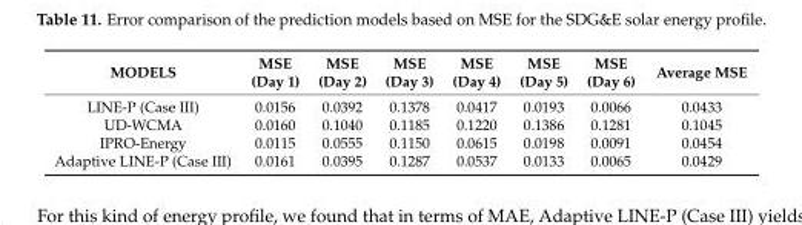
<table><thead><tr><td>MODELS</td><td>MSE (Day 1)</td><td>MSE (Day 2)</td><td>MSE (Day 3)</td><td>MSE (Day 4)</td><td>MSE (Day 5)</td><td>MSE (Day 6)</td><td>Average MSE</td></tr></thead><tbody><tr><td>LINE-P (Case III)</td><td>0.0156</td><td>0.0392</td><td>0.1378</td><td>0.0417</td><td>0.0193</td><td>0.0066</td><td>0.0433</td></tr><tr><td>UD-WCMA</td><td>0.0160</td><td>0.1040</td><td>0.1185</td><td>0.1220</td><td>0.1386</td><td>0.1281</td><td>0.1045</td></tr><tr><td>IPRO-Energy</td><td>0.0115</td><td>0.0555</td><td>0.1150</td><td>0.0615</td><td>0.0198</td><td>0.0091</td><td>0.0454</td></tr><tr><td>Adaptive LINE-P (Case III)</td><td>0.0161</td><td>0.0395</td><td>0.1287</td><td>0.0537</td><td>0.0133</td><td>0.0065</td><td>0.0429</td></tr></tbody></table>